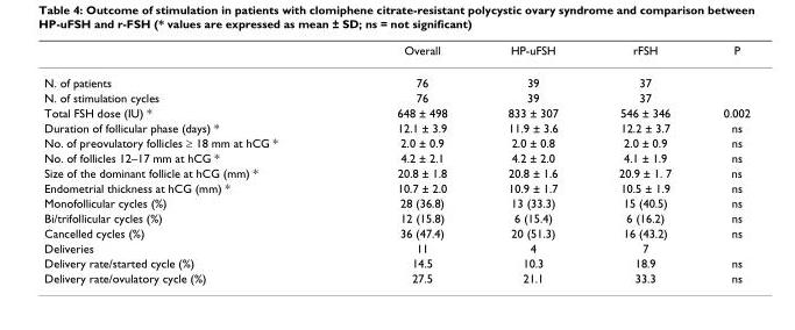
<table><thead><tr><td></td><td>Overall</td><td>HP-uFSH</td><td>rFSH</td><td>P</td></tr></thead><tbody><tr><td>N. of patients</td><td>76</td><td>39</td><td>37</td><td></td></tr><tr><td>N. of stimulation cycles</td><td>76</td><td>39</td><td>37</td><td></td></tr><tr><td>Total FSH dose (IU) *</td><td>648 ± 498</td><td>833 ± 307</td><td>546 ± 346</td><td>0.002</td></tr><tr><td>Duration of follicular phase (days) *</td><td>12.1 ± 3.9</td><td>11.9 ± 3.6</td><td>12.2 ± 3.7</td><td>ns</td></tr><tr><td>No. of preovulatory follicles ≥ 18 mm at hCG *</td><td>2.0 ± 0.9</td><td>2.0 ± 0.8</td><td>2.0 ± 0.9</td><td>ns</td></tr><tr><td>No. of follicles 12–17 mm at hCG *</td><td>4.2 ± 2.1</td><td>4.2 ± 2.0</td><td>4.1 ± 1.9</td><td>ns</td></tr><tr><td>Size of the dominant follicle at hCG (mm) *</td><td>20.8 ± 1.8</td><td>20.8 ± 1.6</td><td>20.9 ± 1. 7</td><td>ns</td></tr><tr><td>Endometrial thickness at hCG (mm) *</td><td>10.7 ± 2.0</td><td>10.9 ± 1.7</td><td>10.5 ± 1.9</td><td>ns</td></tr><tr><td>Monofollicular cycles (%)</td><td>28 (36.8)</td><td>13 (33.3)</td><td>15 (40.5)</td><td>ns</td></tr><tr><td>Bi/trifollicular cycles (%)</td><td>12 (15.8)</td><td>6 (15.4)</td><td>6 (16.2)</td><td>ns</td></tr><tr><td>Cancelled cycles (%)</td><td>36 (47.4)</td><td>20 (51.3)</td><td>16 (43.2)</td><td>ns</td></tr><tr><td>Deliveries</td><td>11</td><td>4</td><td>7</td><td></td></tr><tr><td>Delivery rate/started cycle (%)</td><td>14.5</td><td>10.3</td><td>18.9</td><td>ns</td></tr><tr><td>Delivery rate/ovulatory cycle (%)</td><td>27.5</td><td>21.1</td><td>33.3</td><td>ns</td></tr></tbody></table>